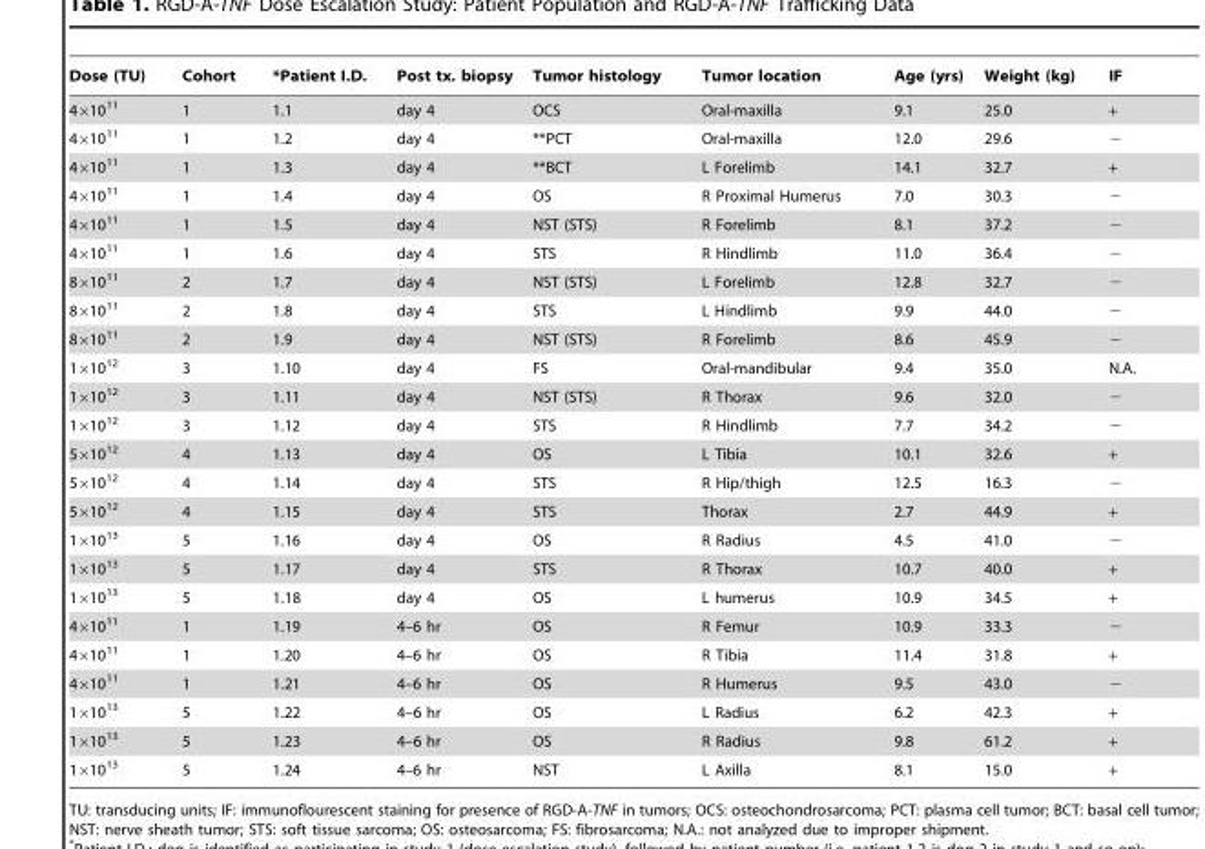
<table><thead><tr><td>Dose (TU)</td><td>Cohort</td><td>*Patient I.D.</td><td>Post tx. biopsy</td><td>Tumor histology</td><td>Tumor location</td><td>Age (yrs)</td><td>Weight (kg)</td><td>IF</td></tr></thead><tbody><tr><td>4×10<sup>11</sup></td><td>1</td><td>1.1</td><td>day 4</td><td>OCS</td><td>Oral-maxilla</td><td>9.1</td><td>25.0</td><td>+</td></tr><tr><td>4×10<sup>11</sup></td><td>1</td><td>1.2</td><td>day 4</td><td>**PCT</td><td>Oral-maxilla</td><td>12.0</td><td>29.6</td><td>−</td></tr><tr><td>4×10<sup>11</sup></td><td>1</td><td>1.3</td><td>day 4</td><td>**BCT</td><td>L Forelimb</td><td>14.1</td><td>32.7</td><td>+</td></tr><tr><td>4×10<sup>11</sup></td><td>1</td><td>1.4</td><td>day 4</td><td>OS</td><td>R Proximal Humerus</td><td>7.0</td><td>30.3</td><td>−</td></tr><tr><td>4×10<sup>11</sup></td><td>1</td><td>1.5</td><td>day 4</td><td>NST (STS)</td><td>R Forelimb</td><td>8.1</td><td>37.2</td><td>−</td></tr><tr><td>4×10<sup>11</sup></td><td>1</td><td>1.6</td><td>day 4</td><td>STS</td><td>R Hindlimb</td><td>11.0</td><td>36.4</td><td>−</td></tr><tr><td>8×10<sup>11</sup></td><td>2</td><td>1.7</td><td>day 4</td><td>NST (STS)</td><td>L Forelimb</td><td>12.8</td><td>32.7</td><td>−</td></tr><tr><td>8×10<sup>11</sup></td><td>2</td><td>1.8</td><td>day 4</td><td>STS</td><td>L Hindlimb</td><td>9.9</td><td>44.0</td><td>−</td></tr><tr><td>8×10<sup>11</sup></td><td>2</td><td>1.9</td><td>day 4</td><td>NST (STS)</td><td>R Forelimb</td><td>8.6</td><td>45.9</td><td>−</td></tr><tr><td>1×10<sup>12</sup></td><td>3</td><td>1.10</td><td>day 4</td><td>FS</td><td>Oral-mandibular</td><td>9.4</td><td>35.0</td><td>N.A.</td></tr><tr><td>1×10<sup>12</sup></td><td>3</td><td>1.11</td><td>day 4</td><td>NST (STS)</td><td>R Thorax</td><td>9.6</td><td>32.0</td><td>−</td></tr><tr><td>1×10<sup>12</sup></td><td>3</td><td>1.12</td><td>day 4</td><td>STS</td><td>R Hindlimb</td><td>7.7</td><td>34.2</td><td>−</td></tr><tr><td>5×10<sup>12</sup></td><td>4</td><td>1.13</td><td>day 4</td><td>OS</td><td>L Tibia</td><td>10.1</td><td>32.6</td><td>+</td></tr><tr><td>5×10<sup>12</sup></td><td>4</td><td>1.14</td><td>day 4</td><td>STS</td><td>R Hip/thigh</td><td>12.5</td><td>16.3</td><td>−</td></tr><tr><td>5×10<sup>12</sup></td><td>4</td><td>1.15</td><td>day 4</td><td>STS</td><td>Thorax</td><td>2.7</td><td>44.9</td><td>+</td></tr><tr><td>1×10<sup>13</sup></td><td>5</td><td>1.16</td><td>day 4</td><td>OS</td><td>R Radius</td><td>4.5</td><td>41.0</td><td>−</td></tr><tr><td>1×10<sup>13</sup></td><td>5</td><td>1.17</td><td>day 4</td><td>STS</td><td>R Thorax</td><td>10.7</td><td>40.0</td><td>+</td></tr><tr><td>1×10<sup>13</sup></td><td>5</td><td>1.18</td><td>day 4</td><td>OS</td><td>L humerus</td><td>10.9</td><td>34.5</td><td>+</td></tr><tr><td>4×10<sup>11</sup></td><td>1</td><td>1.19</td><td>4–6 hr</td><td>OS</td><td>R Femur</td><td>10.9</td><td>33.3</td><td>−</td></tr><tr><td>4×10<sup>11</sup></td><td>1</td><td>1.20</td><td>4–6 hr</td><td>OS</td><td>R Tibia</td><td>11.4</td><td>31.8</td><td>+</td></tr><tr><td>4×10<sup>11</sup></td><td>1</td><td>1.21</td><td>4–6 hr</td><td>OS</td><td>R Humerus</td><td>9.5</td><td>43.0</td><td>−</td></tr><tr><td>1×10<sup>13</sup></td><td>5</td><td>1.22</td><td>4–6 hr</td><td>OS</td><td>L Radius</td><td>6.2</td><td>42.3</td><td>+</td></tr><tr><td>1×10<sup>13</sup></td><td>5</td><td>1.23</td><td>4–6 hr</td><td>OS</td><td>R Radius</td><td>9.8</td><td>61.2</td><td>+</td></tr><tr><td>1×10<sup>13</sup></td><td>5</td><td>1.24</td><td>4–6 hr</td><td>NST</td><td>L Axilla</td><td>8.1</td><td>15.0</td><td>+</td></tr></tbody></table>